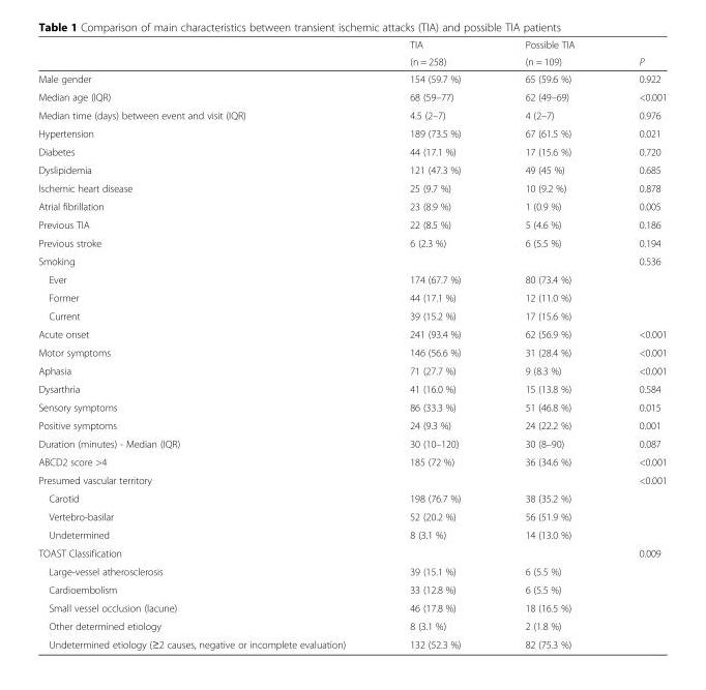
<table><thead><tr><td rowspan="2"></td><td rowspan="2">TIA (n = 258)</td><td rowspan="2">Possible TIA (n = 109)</td><td rowspan="2">P</td></tr><tr></tr></thead><tbody><tr><td>Male gender</td><td>154 (59.7 %)</td><td>65 (59.6 %)</td><td>0.922</td></tr><tr><td>Median age (IQR)</td><td>68 (59–77)</td><td>62 (49–69)</td><td>&lt;0.001</td></tr><tr><td>Median time (days) between event and visit (IQR)</td><td>4.5 (2–7)</td><td>4 (2–7)</td><td>0.976</td></tr><tr><td>Hypertension</td><td>189 (73.5 %)</td><td>67 (61.5 %)</td><td>0.021</td></tr><tr><td>Diabetes</td><td>44 (17.1 %)</td><td>17 (15.6 %)</td><td>0.720</td></tr><tr><td>Dyslipidemia</td><td>121 (47.3 %)</td><td>49 (45 %)</td><td>0.685</td></tr><tr><td>Ischemic heart disease</td><td>25 (9.7 %)</td><td>10 (9.2 %)</td><td>0.878</td></tr><tr><td>Atrial fibrillation</td><td>23 (8.9 %)</td><td>1 (0.9 %)</td><td>0.005</td></tr><tr><td>Previous TIA</td><td>22 (8.5 %)</td><td>5 (4.6 %)</td><td>0.186</td></tr><tr><td>Previous stroke</td><td>6 (2.3 %)</td><td>6 (5.5 %)</td><td>0.194</td></tr><tr><td>Smoking</td><td></td><td></td><td>0.536</td></tr><tr><td>Ever</td><td>174 (67.7 %)</td><td>80 (73.4 %)</td><td></td></tr><tr><td>Former</td><td>44 (17.1 %)</td><td>12 (11.0 %)</td><td></td></tr><tr><td>Current</td><td>39 (15.2 %)</td><td>17 (15.6 %)</td><td></td></tr><tr><td>Acute onset</td><td>241 (93.4 %)</td><td>62 (56.9 %)</td><td>&lt;0.001</td></tr><tr><td>Motor symptoms</td><td>146 (56.6 %)</td><td>31 (28.4 %)</td><td>&lt;0.001</td></tr><tr><td>Aphasia</td><td>71 (27.7 %)</td><td>9 (8.3 %)</td><td>&lt;0.001</td></tr><tr><td>Dysarthria</td><td>41 (16.0 %)</td><td>15 (13.8 %)</td><td>0.584</td></tr><tr><td>Sensory symptoms</td><td>86 (33.3 %)</td><td>51 (46.8 %)</td><td>0.015</td></tr><tr><td>Positive symptoms</td><td>24 (9.3 %)</td><td>24 (22.2 %)</td><td>0.001</td></tr><tr><td>Duration (minutes) - Median (IQR)</td><td>30 (10–120)</td><td>30 (8–90)</td><td>0.087</td></tr><tr><td>ABCD2 score &gt;4</td><td>185 (72 %)</td><td>36 (34.6 %)</td><td>&lt;0.001</td></tr><tr><td>Presumed vascular territory</td><td></td><td></td><td>&lt;0.001</td></tr><tr><td>Carotid</td><td>198 (76.7 %)</td><td>38 (35.2 %)</td><td></td></tr><tr><td>Vertebro-basilar</td><td>52 (20.2 %)</td><td>56 (51.9 %)</td><td></td></tr><tr><td>Undetermined</td><td>8 (3.1 %)</td><td>14 (13.0 %)</td><td></td></tr><tr><td>TOAST Classification</td><td></td><td></td><td>0.009</td></tr><tr><td>Large-vessel atherosclerosis</td><td>39 (15.1 %)</td><td>6 (5.5 %)</td><td></td></tr><tr><td>Cardioembolism</td><td>33 (12.8 %)</td><td>6 (5.5 %)</td><td></td></tr><tr><td>Small vessel occlusion (lacune)</td><td>46 (17.8 %)</td><td>18 (16.5 %)</td><td></td></tr><tr><td>Other determined etiology</td><td>8 (3.1 %)</td><td>2 (1.8 %)</td><td></td></tr><tr><td>Undetermined etiology (≥2 causes, negative or incomplete evaluation)</td><td>132 (52.3 %)</td><td>82 (75.3 %)</td><td></td></tr></tbody></table>